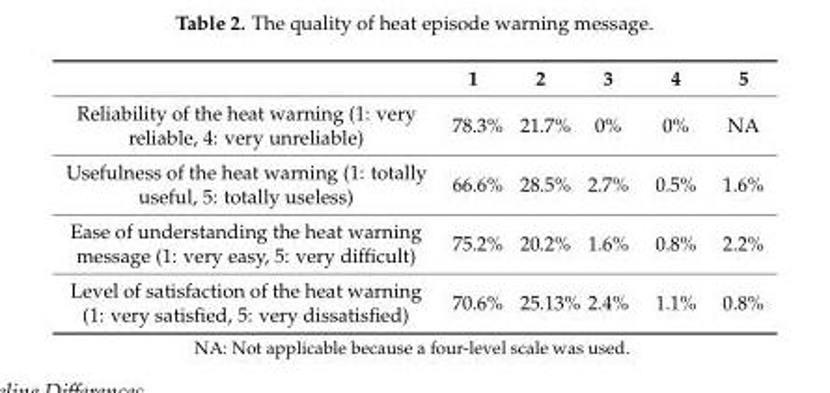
<table><thead><tr><td></td><td>1</td><td>2</td><td>3</td><td>4</td><td>5</td></tr></thead><tbody><tr><td>Reliability of the heat warning (1: very reliable, 4: very unreliable)</td><td>78.3%</td><td>21.7%</td><td>0%</td><td>0%</td><td>NA</td></tr><tr><td>Usefulness of the heat warning (1: totally useful, 5: totally useless)</td><td>66.6%</td><td>28.5%</td><td>2.7%</td><td>0.5%</td><td>1.6%</td></tr><tr><td>Ease of understanding the heat warning message (1: very easy, 5: very difficult)</td><td>75.2%</td><td>20.2%</td><td>1.6%</td><td>0.8%</td><td>2.2%</td></tr><tr><td>Level of satisfaction of the heat warning (1: very satisfied, 5: very dissatisfied)</td><td>70.6%</td><td>25.13%</td><td>2.4%</td><td>1.1%</td><td>0.8%</td></tr></tbody></table>